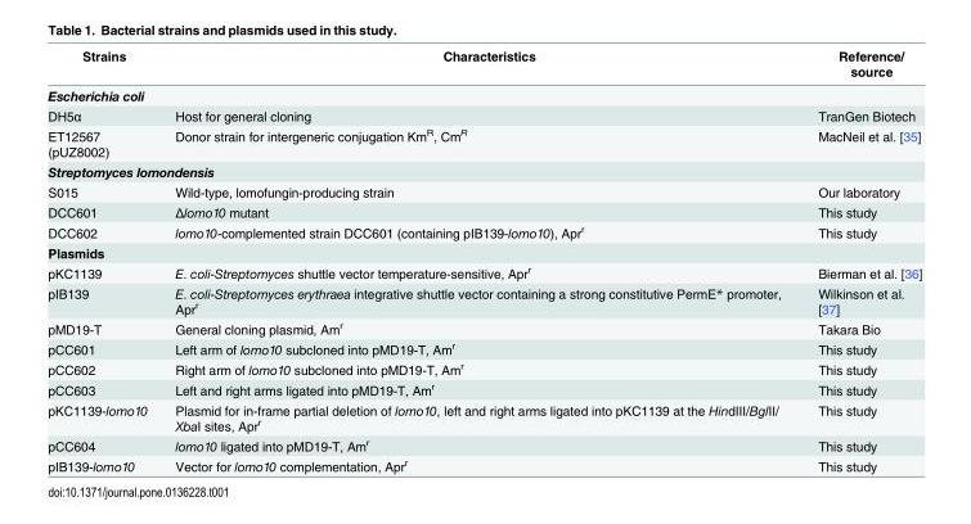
<table><thead><tr><td>Strains</td><td>Characteristics</td><td>Reference/ source</td></tr></thead><tbody><tr><td colspan="3">Escherichia coli</td></tr><tr><td>DH5α</td><td>Host for general cloning</td><td>TranGen Biotech</td></tr><tr><td>ET12567 (pUZ8002)</td><td>Donor strain for intergeneric conjugation Km<sup>R</sup>, Cm<sup>R</sup></td><td>MacNeil et al. [35]</td></tr><tr><td colspan="3">Streptomyces lomondensis</td></tr><tr><td>S015</td><td>Wild-type, lomofungin-producing strain</td><td>Our laboratory</td></tr><tr><td>DCC601</td><td>Δlomo10 mutant</td><td>This study</td></tr><tr><td>DCC602</td><td>lomo10-complemented strain DCC601 (containing pIB139-lomo10), Apr<sup>r</sup></td><td>This study</td></tr><tr><td colspan="3">Plasmids</td></tr><tr><td>pKC1139</td><td>E. coli-Streptomyces shuttle vector temperature-sensitive, Apr<sup>r</sup></td><td>Bierman et al. [36]</td></tr><tr><td>pIB139</td><td>E. coli-Streptomyces erythraea integrative shuttle vector containing a strong constitutive PermE* promoter, Apr<sup>r</sup></td><td>Wilkinson et al. [37]</td></tr><tr><td>pMD19-T</td><td>General cloning plasmid, Am<sup>r</sup></td><td>Takara Bio</td></tr><tr><td>pCC601</td><td>Left arm of lomo10 subcloned into pMD19-T, Am<sup>r</sup></td><td>This study</td></tr><tr><td>pCC602</td><td>Right arm of lomo10 subcloned into pMD19-T, Am<sup>r</sup></td><td>This study</td></tr><tr><td>pCC603</td><td>Left and right arms ligated into pMD19-T, Am<sup>r</sup></td><td>This study</td></tr><tr><td>pKC1139-lomo10</td><td>Plasmid for in-frame partial deletion of lomo10, left and right arms ligated into pKC1139 at the HindIII/BglII/ XbaI sites, Apr<sup>r</sup></td><td>This study</td></tr><tr><td>pCC604</td><td>lomo10 ligated into pMD19-T, Am<sup>r</sup></td><td>This study</td></tr><tr><td>pIB139-lomo10</td><td>Vector for lomo10 complementation, Apr<sup>r</sup></td><td>This study</td></tr></tbody></table>